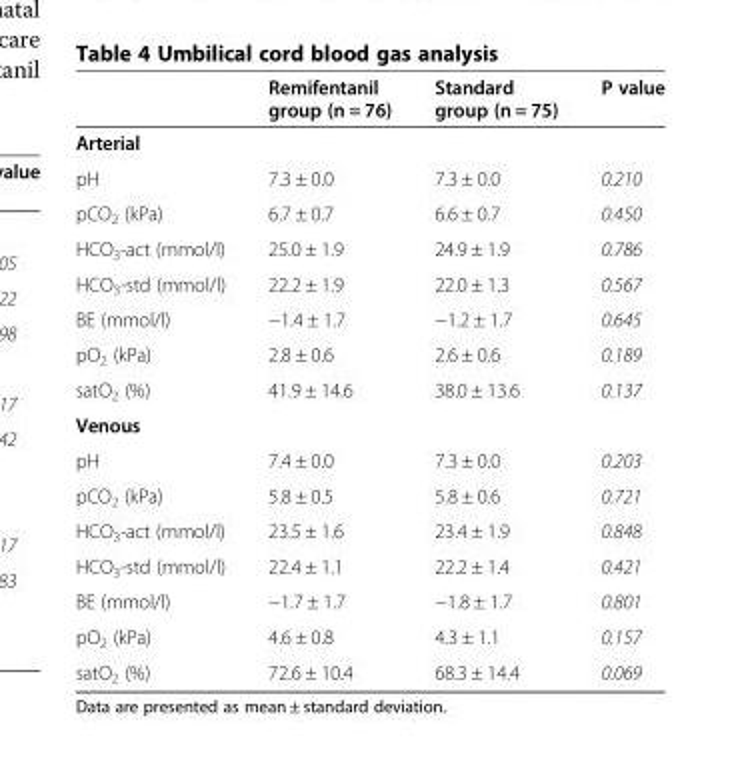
<table><thead><tr><td></td><td>Remifentanil group (n = 76)</td><td>Standard group (n = 75)</td><td>P value</td></tr></thead><tbody><tr><td colspan="4">Arterial</td></tr><tr><td>pH</td><td>7.3 ± 0.0</td><td>7.3 ± 0.0</td><td>0.210</td></tr><tr><td>pCO<sub>2</sub> (kPa)</td><td>6.7 ± 0.7</td><td>6.6 ± 0.7</td><td>0.450</td></tr><tr><td>HCO<sub>3</sub>-act (mmol/l)</td><td>25.0 ± 1.9</td><td>24.9 ± 1.9</td><td>0.786</td></tr><tr><td>HCO<sub>3</sub>-std (mmol/l)</td><td>22.2 ± 1.9</td><td>22.0 ± 1.3</td><td>0.567</td></tr><tr><td>BE (mmol/l)</td><td>−1.4 ± 1.7</td><td>−1.2 ± 1.7</td><td>0.645</td></tr><tr><td>pO<sub>2</sub> (kPa)</td><td>2.8 ± 0.6</td><td>2.6 ± 0.6</td><td>0.189</td></tr><tr><td>satO<sub>2</sub> (%)</td><td>41.9 ± 14.6</td><td>38.0 ± 13.6</td><td>0.137</td></tr><tr><td colspan="4">Venous</td></tr><tr><td>pH</td><td>7.4 ± 0.0</td><td>7.3 ± 0.0</td><td>0.203</td></tr><tr><td>pCO<sub>2</sub> (kPa)</td><td>5.8 ± 0.5</td><td>5.8 ± 0.6</td><td>0.721</td></tr><tr><td>HCO<sub>3</sub>-act (mmol/l)</td><td>23.5 ± 1.6</td><td>23.4 ± 1.9</td><td>0.848</td></tr><tr><td>HCO<sub>3</sub>-std (mmol/l)</td><td>22.4 ± 1.1</td><td>22.2 ± 1.4</td><td>0.421</td></tr><tr><td>BE (mmol/l)</td><td>−1.7 ± 1.7</td><td>−1.8 ± 1.7</td><td>0.801</td></tr><tr><td>pO<sub>2</sub> (kPa)</td><td>4.6 ± 0.8</td><td>4.3 ± 1.1</td><td>0.157</td></tr><tr><td>satO<sub>2</sub> (%)</td><td>72.6 ± 10.4</td><td>68.3 ± 14.4</td><td>0.069</td></tr></tbody></table>